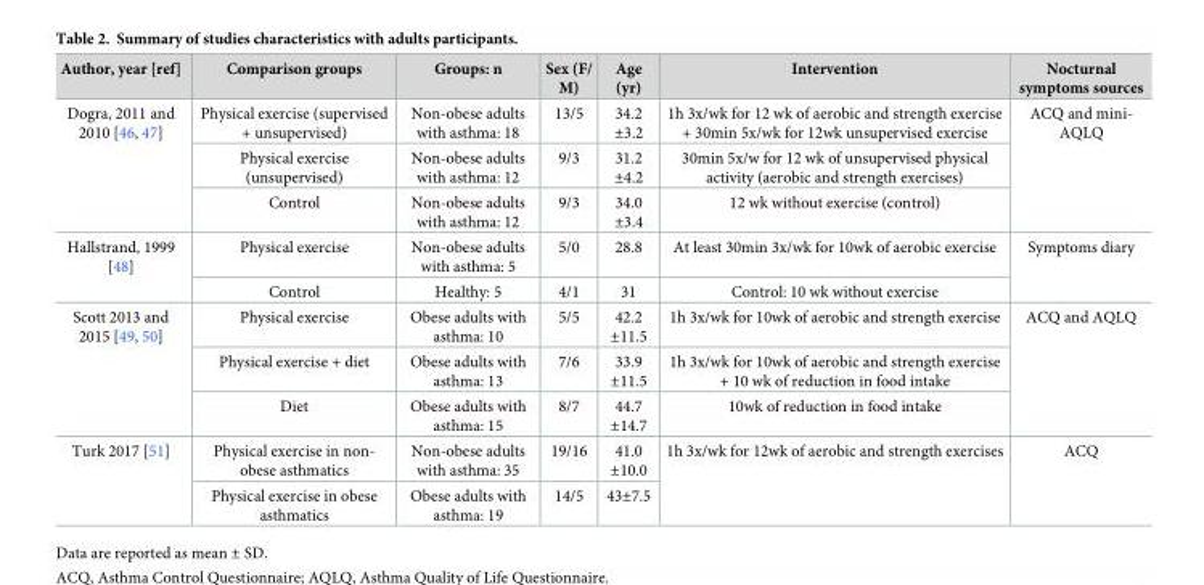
<table><thead><tr><td>Author, year [ref]</td><td>Comparison groups</td><td>Groups: n</td><td>Sex (F/ M)</td><td>Age (yr)</td><td>Intervention</td><td>Nocturnal symptoms sources</td></tr></thead><tbody><tr><td rowspan="3">Dogra, 2011 and 2010 [46, 47]</td><td>Physical exercise (supervised + unsupervised)</td><td>Non-obese adults with asthma: 18</td><td>13/5</td><td>34.2 ±3.2</td><td>1h 3x/wk for 12 wk of aerobic and strength exercise + 30min 5x/wk for 12wk unsupervised exercise</td><td rowspan="3">ACQ and mini- AQLQ</td></tr><tr><td>Physical exercise (unsupervised)</td><td>Non-obese adults with asthma: 12</td><td>9/3</td><td>31.2 ±4.2</td><td>30min 5x/w for 12 wk of unsupervised physical activity (aerobic and strength exercises)</td></tr><tr><td>Control</td><td>Non-obese adults with asthma: 12</td><td>9/3</td><td>34.0 ±3.4</td><td>12 wk without exercise (control)</td></tr><tr><td rowspan="2">Hallstrand, 1999 [48]</td><td>Physical exercise</td><td>Non-obese adults with asthma: 5</td><td>5/0</td><td>28.8</td><td>At least 30min 3x/wk for 10wk of aerobic exercise</td><td rowspan="2">Symptoms diary</td></tr><tr><td>Control</td><td>Healthy: 5</td><td>4/1</td><td>31</td><td>Control: 10 wk without exercise</td></tr><tr><td rowspan="3">Scott 2013 and 2015 [49, 50]</td><td>Physical exercise</td><td>Obese adults with asthma: 10</td><td>5/5</td><td>42.2 ±11.5</td><td>1h 3x/wk for 10wk of aerobic and strength exercise</td><td rowspan="3">ACQ and AQLQ</td></tr><tr><td>Physical exercise + diet</td><td>Obese adults with asthma: 13</td><td>7/6</td><td>33.9 ±11.5</td><td>1h 3x/wk for 10wk of aerobic and strength exercise + 10 wk of reduction in food intake</td></tr><tr><td>Diet</td><td>Obese adults with asthma: 15</td><td>8/7</td><td>44.7 ±14.7</td><td>10wk of reduction in food intake</td></tr><tr><td rowspan="2">Turk 2017 [51]</td><td>Physical exercise in non- obese asthmatics</td><td>Non-obese adults with asthma: 35</td><td>19/16</td><td>41.0 ±10.0</td><td rowspan="2">1h 3x/wk for 12wk of aerobic and strength exercises</td><td rowspan="2">ACQ</td></tr><tr><td>Physical exercise in obese asthmatics</td><td>Obese adults with asthma: 19</td><td>14/5</td><td>43±7.5</td></tr></tbody></table>